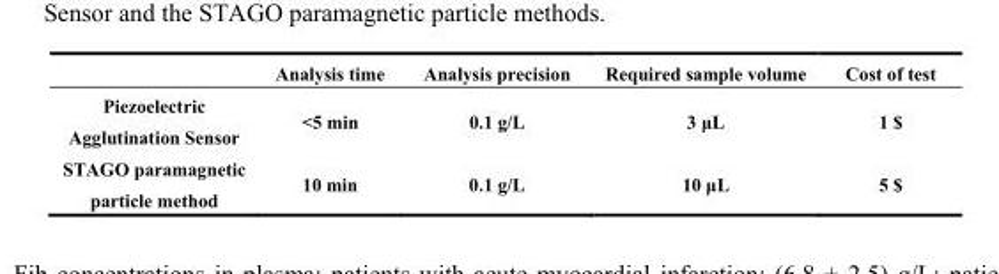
<table><thead><tr><td></td><td>Analysis time</td><td>Analysis precision</td><td>Required sample volume</td><td>Cost of test</td></tr></thead><tbody><tr><td>Piezoelectric Agglutination Sensor</td><td>&lt;5 min</td><td>0.1 g/L</td><td>3 μL</td><td>1 $</td></tr><tr><td>STAGO paramagnetic particle method</td><td>10 min</td><td>0.1 g/L</td><td>10 μL</td><td>5 $</td></tr></tbody></table>